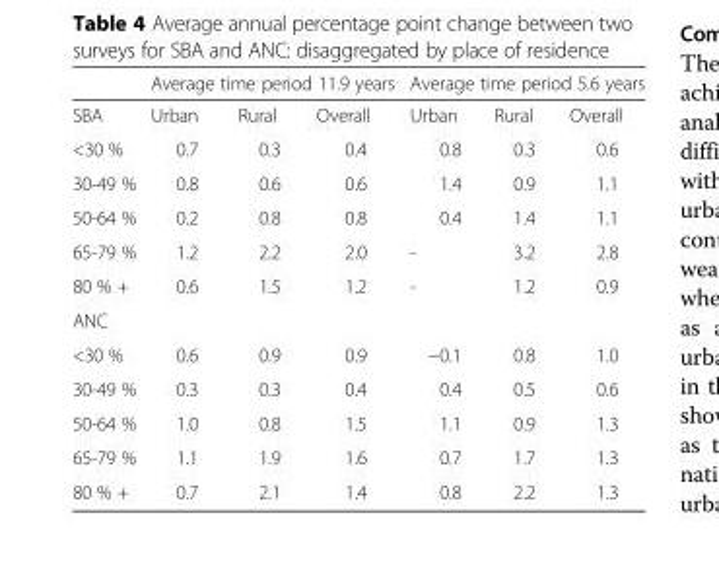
<table><thead><tr><td rowspan="2">SBA</td><td colspan="3">Average time period 11.9 years</td><td colspan="3">Average time period 5.6 years</td></tr><tr><td>Urban</td><td>Rural</td><td>Overall</td><td>Urban</td><td>Rural</td><td>Overall</td></tr></thead><tbody><tr><td>&lt;30 %</td><td>0.7</td><td>0.3</td><td>0.4</td><td>0.8</td><td>0.3</td><td>0.6</td></tr><tr><td>30-49 %</td><td>0.8</td><td>0.6</td><td>0.6</td><td>1.4</td><td>0.9</td><td>1.1</td></tr><tr><td>50-64 %</td><td>0.2</td><td>0.8</td><td>0.8</td><td>0.4</td><td>1.4</td><td>1.1</td></tr><tr><td>65-79 %</td><td>1.2</td><td>2.2</td><td>2.0</td><td>-</td><td>3.2</td><td>2.8</td></tr><tr><td>80 % +</td><td>0.6</td><td>1.5</td><td>1.2</td><td>-</td><td>1.2</td><td>0.9</td></tr><tr><td colspan="7">ANC</td></tr><tr><td>&lt;30 %</td><td>0.6</td><td>0.9</td><td>0.9</td><td>−0.1</td><td>0.8</td><td>1.0</td></tr><tr><td>30-49 %</td><td>0.3</td><td>0.3</td><td>0.4</td><td>0.4</td><td>0.5</td><td>0.6</td></tr><tr><td>50-64 %</td><td>1.0</td><td>0.8</td><td>1.5</td><td>1.1</td><td>0.9</td><td>1.3</td></tr><tr><td>65-79 %</td><td>1.1</td><td>1.9</td><td>1.6</td><td>0.7</td><td>1.7</td><td>1.3</td></tr><tr><td>80 % +</td><td>0.7</td><td>2.1</td><td>1.4</td><td>0.8</td><td>2.2</td><td>1.3</td></tr></tbody></table>